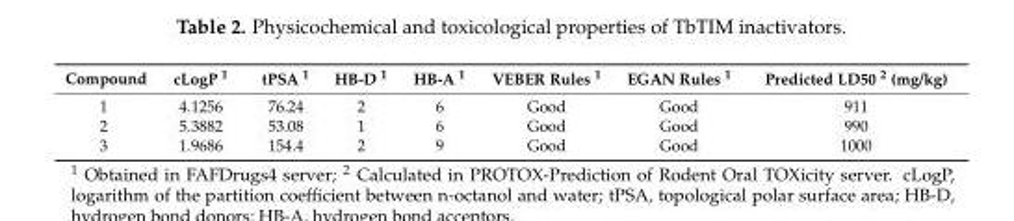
<table><thead><tr><td>Compound</td><td>cLogP <sup>1</sup></td><td>tPSA <sup>1</sup></td><td>HB-D <sup>1</sup></td><td>HB-A <sup>1</sup></td><td>VEBER Rules <sup>1</sup></td><td>EGAN Rules <sup>1</sup></td><td>Predicted LD50 <sup>2</sup> (mg/kg)</td></tr></thead><tbody><tr><td>1</td><td>4.1256</td><td>76.24</td><td>2</td><td>6</td><td>Good</td><td>Good</td><td>911</td></tr><tr><td>2</td><td>5.3882</td><td>53.08</td><td>1</td><td>6</td><td>Good</td><td>Good</td><td>990</td></tr><tr><td>3</td><td>1.9686</td><td>154.4</td><td>2</td><td>9</td><td>Good</td><td>Good</td><td>1000</td></tr></tbody></table>